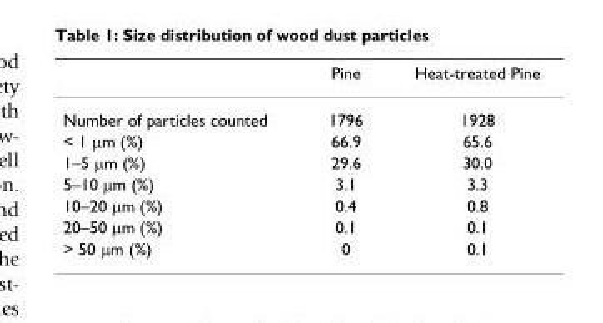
<table><thead><tr><td></td><td>Pine</td><td>Heat-treated Pine</td></tr></thead><tbody><tr><td>Number of particles counted</td><td>1796</td><td>1928</td></tr><tr><td>&lt; 1 µm (%)</td><td>66.9</td><td>65.6</td></tr><tr><td>1–5 µm (%)</td><td>29.6</td><td>30.0</td></tr><tr><td>5–10 µm (%)</td><td>3.1</td><td>3.3</td></tr><tr><td>10–20 µm (%)</td><td>0.4</td><td>0.8</td></tr><tr><td>20–50 µm (%)</td><td>0.1</td><td>0.1</td></tr><tr><td>&gt; 50 µm (%)</td><td>0</td><td>0.1</td></tr></tbody></table>